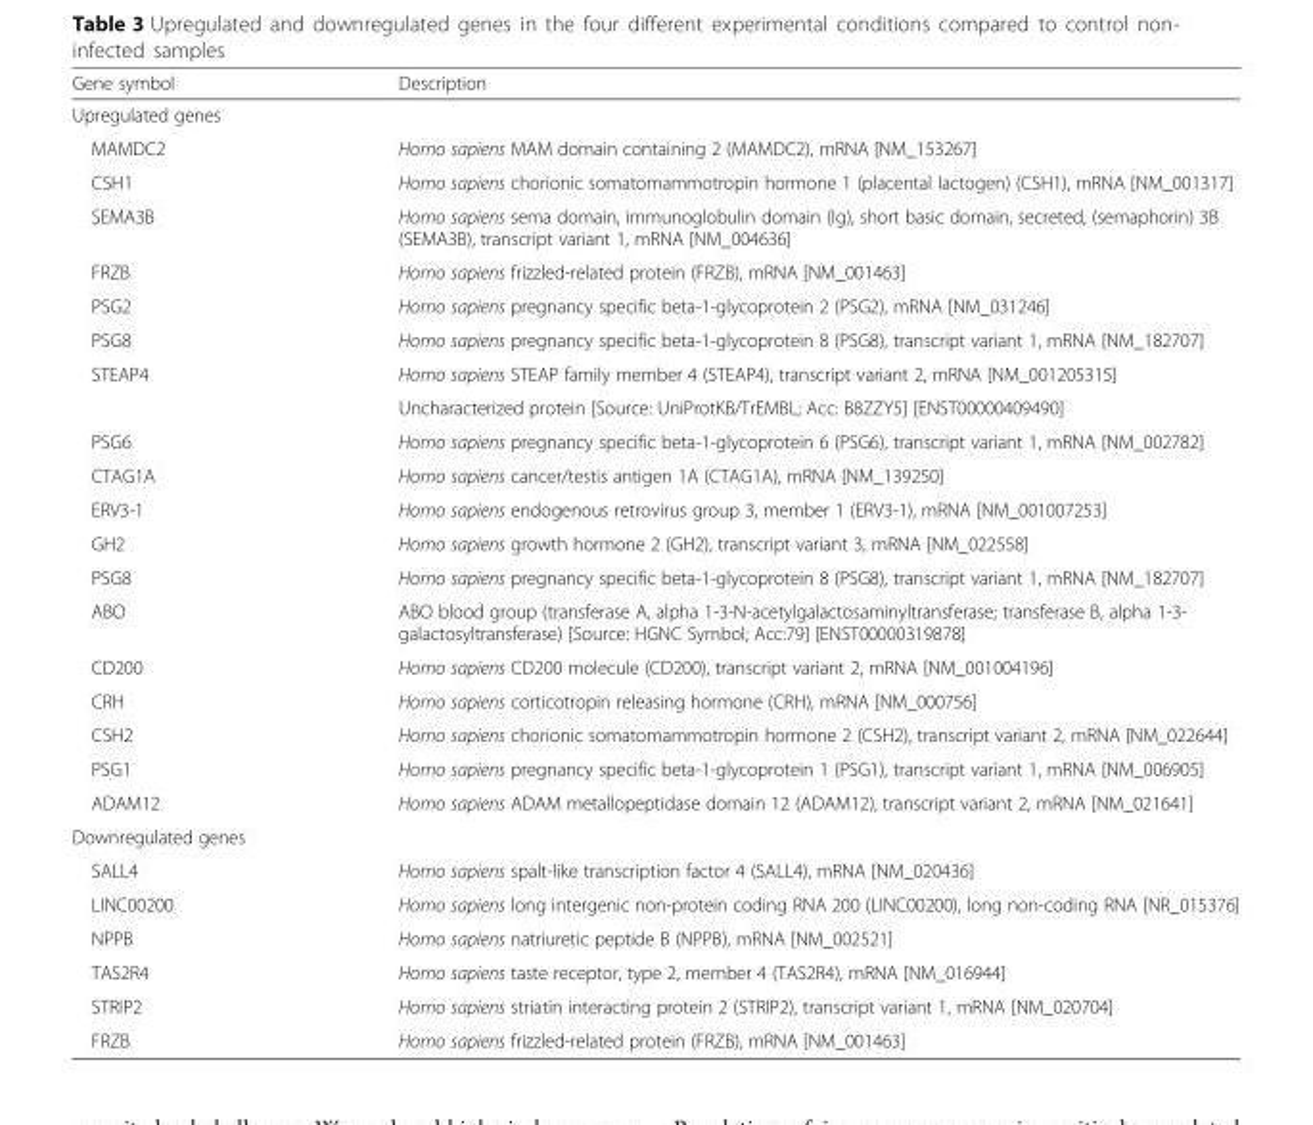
<table><thead><tr><td>Gene symbol</td><td>Description</td></tr></thead><tbody><tr><td colspan="2">Upregulated genes</td></tr><tr><td>MAMDC2</td><td>Homo sapiens MAM domain containing 2 (MAMDC2), mRNA [NM_153267]</td></tr><tr><td>CSH1</td><td>Homo sapiens chorionic somatomammotropin hormone 1 (placental lactogen) (CSH1), mRNA [NM_001317]</td></tr><tr><td>SEMA3B</td><td>Homo sapiens sema domain, immunoglobulin domain (Ig), short basic domain, secreted, (semaphorin) 3B (SEMA3B), transcript variant 1, mRNA [NM_004636]</td></tr><tr><td>FRZB</td><td>Homo sapiens frizzled-related protein (FRZB), mRNA [NM_001463]</td></tr><tr><td>PSG2</td><td>Homo sapiens pregnancy specific beta-1-glycoprotein 2 (PSG2), mRNA [NM_031246]</td></tr><tr><td>PSG8</td><td>Homo sapiens pregnancy specific beta-1-glycoprotein 8 (PSG8), transcript variant 1, mRNA [NM_182707]</td></tr><tr><td rowspan="2">STEAP4</td><td>Homo sapiens STEAP family member 4 (STEAP4), transcript variant 2, mRNA [NM_001205315]</td></tr><tr><td>Uncharacterized protein [Source: UniProtKB/TrEMBL; Acc: B8ZZY5] [ENST00000409490]</td></tr><tr><td>PSG6</td><td>Homo sapiens pregnancy specific beta-1-glycoprotein 6 (PSG6), transcript variant 1, mRNA [NM_002782]</td></tr><tr><td>CTAG1A</td><td>Homo sapiens cancer/testis antigen 1A (CTAG1A), mRNA [NM_139250]</td></tr><tr><td>ERV3-1</td><td>Homo sapiens endogenous retrovirus group 3, member 1 (ERV3-1), mRNA [NM_001007253]</td></tr><tr><td>GH2</td><td>Homo sapiens growth hormone 2 (GH2), transcript variant 3, mRNA [NM_022558]</td></tr><tr><td>PSG8</td><td>Homo sapiens pregnancy specific beta-1-glycoprotein 8 (PSG8), transcript variant 1, mRNA [NM_182707]</td></tr><tr><td>ABO</td><td>ABO blood group (transferase A, alpha 1-3-N-acetylgalactosaminyltransferase; transferase B, alpha 1-3- galactosyltransferase) [Source: HGNC Symbol; Acc:79] [ENST00000319878]</td></tr><tr><td>CD200</td><td>Homo sapiens CD200 molecule (CD200), transcript variant 2, mRNA [NM_001004196]</td></tr><tr><td>CRH</td><td>Homo sapiens corticotropin releasing hormone (CRH), mRNA [NM_000756]</td></tr><tr><td>CSH2</td><td>Homo sapiens chorionic somatomammotropin hormone 2 (CSH2), transcript variant 2, mRNA [NM_022644]</td></tr><tr><td>PSG1</td><td>Homo sapiens pregnancy specific beta-1-glycoprotein 1 (PSG1), transcript variant 1, mRNA [NM_006905]</td></tr><tr><td>ADAM12</td><td>Homo sapiens ADAM metallopeptidase domain 12 (ADAM12), transcript variant 2, mRNA [NM_021641]</td></tr><tr><td colspan="2">Downregulated genes</td></tr><tr><td>SALL4</td><td>Homo sapiens spalt-like transcription factor 4 (SALL4), mRNA [NM_020436]</td></tr><tr><td>LINC00200</td><td>Homo sapiens long intergenic non-protein coding RNA 200 (LINC00200), long non-coding RNA [NR_015376]</td></tr><tr><td>NPPB</td><td>Homo sapiens natriuretic peptide B (NPPB), mRNA [NM_002521]</td></tr><tr><td>TAS2R4</td><td>Homo sapiens taste receptor, type 2, member 4 (TAS2R4), mRNA [NM_016944]</td></tr><tr><td>STRIP2</td><td>Homo sapiens striatin interacting protein 2 (STRIP2), transcript variant 1, mRNA [NM_020704]</td></tr><tr><td>FRZB</td><td>Homo sapiens frizzled-related protein (FRZB), mRNA [NM_001463]</td></tr></tbody></table>